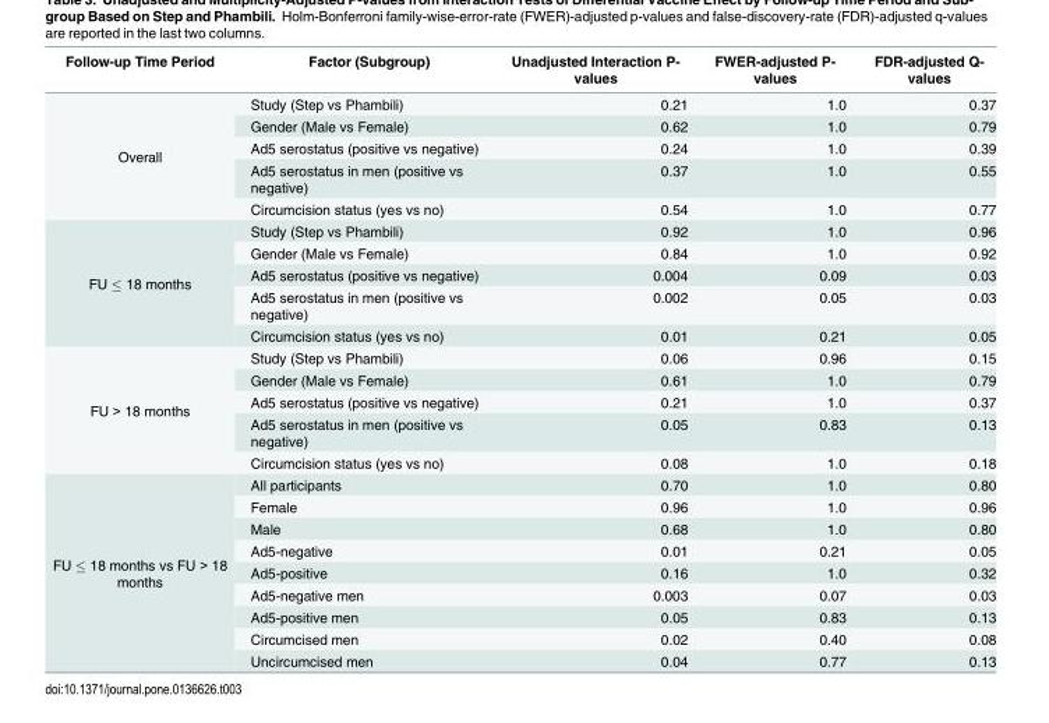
<table><thead><tr><td>Follow-up Time Period</td><td>Factor (Subgroup)</td><td>Unadjusted Interaction P- values</td><td>FWER-adjusted P- values</td><td>FDR-adjusted Q- values</td></tr></thead><tbody><tr><td rowspan="5">Overall</td><td>Study (Step vs Phambili)</td><td>0.21</td><td>1.0</td><td>0.37</td></tr><tr><td>Gender (Male vs Female)</td><td>0.62</td><td>1.0</td><td>0.79</td></tr><tr><td>Ad5 serostatus (positive vs negative)</td><td>0.24</td><td>1.0</td><td>0.39</td></tr><tr><td>Ad5 serostatus in men (positive vs negative)</td><td>0.37</td><td>1.0</td><td>0.55</td></tr><tr><td>Circumcision status (yes vs no)</td><td>0.54</td><td>1.0</td><td>0.77</td></tr><tr><td rowspan="5">FU ≤ 18 months</td><td>Study (Step vs Phambili)</td><td>0.92</td><td>1.0</td><td>0.96</td></tr><tr><td>Gender (Male vs Female)</td><td>0.84</td><td>1.0</td><td>0.92</td></tr><tr><td>Ad5 serostatus (positive vs negative)</td><td>0.004</td><td>0.09</td><td>0.03</td></tr><tr><td>Ad5 serostatus in men (positive vs negative)</td><td>0.002</td><td>0.05</td><td>0.03</td></tr><tr><td>Circumcision status (yes vs no)</td><td>0.01</td><td>0.21</td><td>0.05</td></tr><tr><td rowspan="5">FU &gt; 18 months</td><td>Study (Step vs Phambili)</td><td>0.06</td><td>0.96</td><td>0.15</td></tr><tr><td>Gender (Male vs Female)</td><td>0.61</td><td>1.0</td><td>0.79</td></tr><tr><td>Ad5 serostatus (positive vs negative)</td><td>0.21</td><td>1.0</td><td>0.37</td></tr><tr><td>Ad5 serostatus in men (positive vs negative)</td><td>0.05</td><td>0.83</td><td>0.13</td></tr><tr><td>Circumcision status (yes vs no)</td><td>0.08</td><td>1.0</td><td>0.18</td></tr><tr><td rowspan="9">FU ≤ 18 months vs FU &gt; 18 months</td><td>All participants</td><td>0.70</td><td>1.0</td><td>0.80</td></tr><tr><td>Female</td><td>0.96</td><td>1.0</td><td>0.96</td></tr><tr><td>Male</td><td>0.68</td><td>1.0</td><td>0.80</td></tr><tr><td>Ad5-negative</td><td>0.01</td><td>0.21</td><td>0.05</td></tr><tr><td>Ad5-positive</td><td>0.16</td><td>1.0</td><td>0.32</td></tr><tr><td>Ad5-negative men</td><td>0.003</td><td>0.07</td><td>0.03</td></tr><tr><td>Ad5-positive men</td><td>0.05</td><td>0.83</td><td>0.13</td></tr><tr><td>Circumcised men</td><td>0.02</td><td>0.40</td><td>0.08</td></tr><tr><td>Uncircumcised men</td><td>0.04</td><td>0.77</td><td>0.13</td></tr></tbody></table>